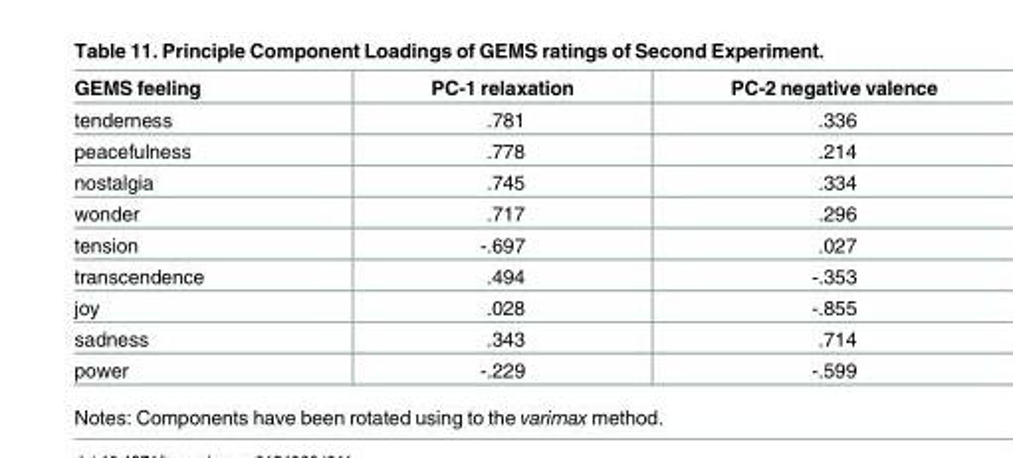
<table><thead><tr><td>GEMS feeling</td><td>PC-1 relaxation</td><td>PC-2 negative valence</td></tr></thead><tbody><tr><td>tenderness</td><td>.781</td><td>.336</td></tr><tr><td>peacefulness</td><td>.778</td><td>.214</td></tr><tr><td>nostalgia</td><td>.745</td><td>.334</td></tr><tr><td>wonder</td><td>.717</td><td>.296</td></tr><tr><td>tension</td><td>-.697</td><td>.027</td></tr><tr><td>transcendence</td><td>.494</td><td>-.353</td></tr><tr><td>joy</td><td>.028</td><td>-.855</td></tr><tr><td>sadness</td><td>.343</td><td>.714</td></tr><tr><td>power</td><td>-.229</td><td>-.599</td></tr></tbody></table>